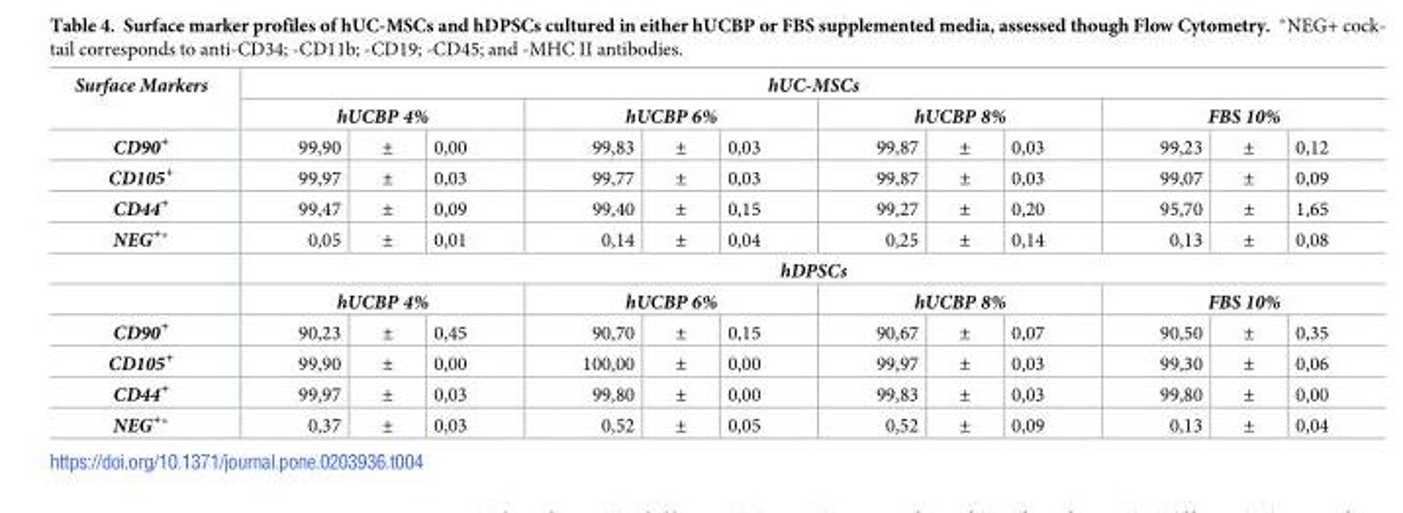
<table><tbody><tr><td rowspan="2">Surface Markers</td><td colspan="12">hUC-MSCs</td></tr><tr><td colspan="3">hUCBP 4%</td><td colspan="3">hUCBP 6%</td><td colspan="3">hUCBP 8%</td><td colspan="3">FBS 10%</td></tr><tr><td>CD90<sup>+</sup></td><td>99,90</td><td>±</td><td>0,00</td><td>99,83</td><td>±</td><td>0,03</td><td>99,87</td><td>±</td><td>0,03</td><td>99,23</td><td>±</td><td>0,12</td></tr><tr><td>CD105<sup>+</sup></td><td>99,97</td><td>±</td><td>0,03</td><td>99,77</td><td>±</td><td>0,03</td><td>99,87</td><td>±</td><td>0,03</td><td>99,07</td><td>±</td><td>0,09</td></tr><tr><td>CD44<sup>+</sup></td><td>99,47</td><td>±</td><td>0,09</td><td>99,40</td><td>±</td><td>0,15</td><td>99,27</td><td>±</td><td>0,20</td><td>95,70</td><td>±</td><td>1,65</td></tr><tr><td rowspan="3">NEG<sup>+</sup>*</td><td>0,05</td><td>±</td><td>0,01</td><td>0,14</td><td>±</td><td>0,04</td><td>0,25</td><td>±</td><td>0,14</td><td>0,13</td><td>±</td><td>0,08</td></tr><tr><td colspan="12">hDPSCs</td></tr><tr><td colspan="3">hUCBP 4%</td><td colspan="3">hUCBP 6%</td><td colspan="3">hUCBP 8%</td><td colspan="3">FBS 10%</td></tr><tr><td>CD90<sup>+</sup></td><td>90,23</td><td>±</td><td>0,45</td><td>90,70</td><td>±</td><td>0,15</td><td>90,67</td><td>±</td><td>0,07</td><td>90,50</td><td>±</td><td>0,35</td></tr><tr><td>CD105<sup>+</sup></td><td>99,90</td><td>±</td><td>0,00</td><td>100,00</td><td>±</td><td>0,00</td><td>99,97</td><td>±</td><td>0,03</td><td>99,30</td><td>±</td><td>0,06</td></tr><tr><td>CD44<sup>+</sup></td><td>99,97</td><td>±</td><td>0,03</td><td>99,80</td><td>±</td><td>0,00</td><td>99,83</td><td>±</td><td>0,03</td><td>99,80</td><td>±</td><td>0,00</td></tr><tr><td>NEG<sup>+</sup>*</td><td>0,37</td><td>±</td><td>0,03</td><td>0,52</td><td>±</td><td>0,05</td><td>0,52</td><td>±</td><td>0,09</td><td>0,13</td><td>±</td><td>0,04</td></tr></tbody></table>